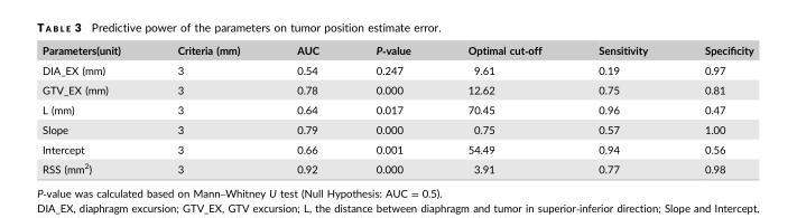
<table><thead><tr><td>Parameters(unit)</td><td>Criteria (mm)</td><td>AUC</td><td>P‐value</td><td>Optimal cut‐off</td><td>Sensitivity</td><td>Specificity</td></tr></thead><tbody><tr><td>DIA_EX (mm)</td><td>3</td><td>0.54</td><td>0.247</td><td>9.61</td><td>0.19</td><td>0.97</td></tr><tr><td>GTV_EX (mm)</td><td>3</td><td>0.78</td><td>0.000</td><td>12.62</td><td>0.75</td><td>0.81</td></tr><tr><td>L (mm)</td><td>3</td><td>0.64</td><td>0.017</td><td>70.45</td><td>0.96</td><td>0.47</td></tr><tr><td>Slope</td><td>3</td><td>0.79</td><td>0.000</td><td>0.75</td><td>0.57</td><td>1.00</td></tr><tr><td>Intercept</td><td>3</td><td>0.66</td><td>0.001</td><td>54.49</td><td>0.94</td><td>0.56</td></tr><tr><td>RSS (mm<sup>2</sup>)</td><td>3</td><td>0.92</td><td>0.000</td><td>3.91</td><td>0.77</td><td>0.98</td></tr></tbody></table>